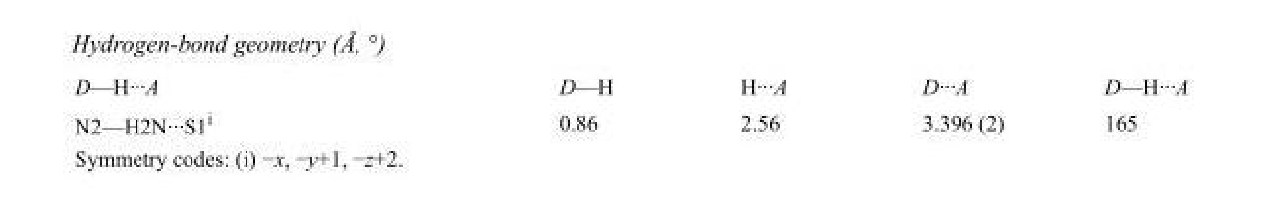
<table><tbody><tr><td>D—H···A</td><td>D—H</td><td>H···A</td><td>D···A</td><td>D—H···A</td></tr><tr><td>N2—H2N···S1<sup>i</sup></td><td>0.86</td><td>2.56</td><td>3.396 (2)</td><td>165</td></tr></tbody></table>